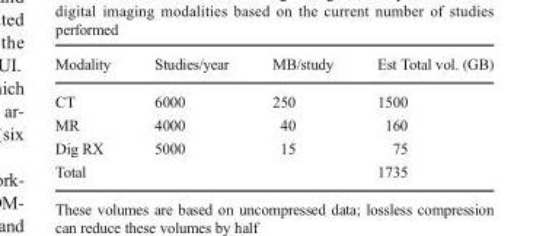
<table><thead><tr><td>Modality</td><td>Studies/year</td><td>MB/study</td><td>Est Total vol. (GB)</td></tr></thead><tbody><tr><td>CT</td><td>6000</td><td>250</td><td>1500</td></tr><tr><td>MR</td><td>4000</td><td>40</td><td>160</td></tr><tr><td>Dig RX</td><td>5000</td><td>15</td><td>75</td></tr><tr><td>Total</td><td></td><td></td><td>1735</td></tr></tbody></table>